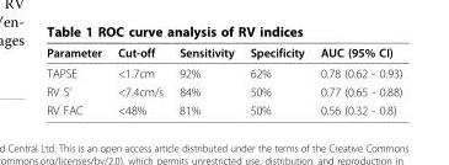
<table><thead><tr><td>Parameter</td><td>Cut-off</td><td>Sensitivity</td><td>Specificity</td><td>AUC (95% CI)</td></tr></thead><tbody><tr><td>TAPSE</td><td>&lt;1.7cm</td><td>92%</td><td>62%</td><td>0.78 (0.62 - 0.93)</td></tr><tr><td>RV S’</td><td>&lt;7.4cm/s</td><td>84%</td><td>50%</td><td>0.77 (0.65 - 0.88)</td></tr><tr><td>RV FAC</td><td>&lt;48%</td><td>81%</td><td>50%</td><td>0.56 (0.32 - 0.8)</td></tr></tbody></table>